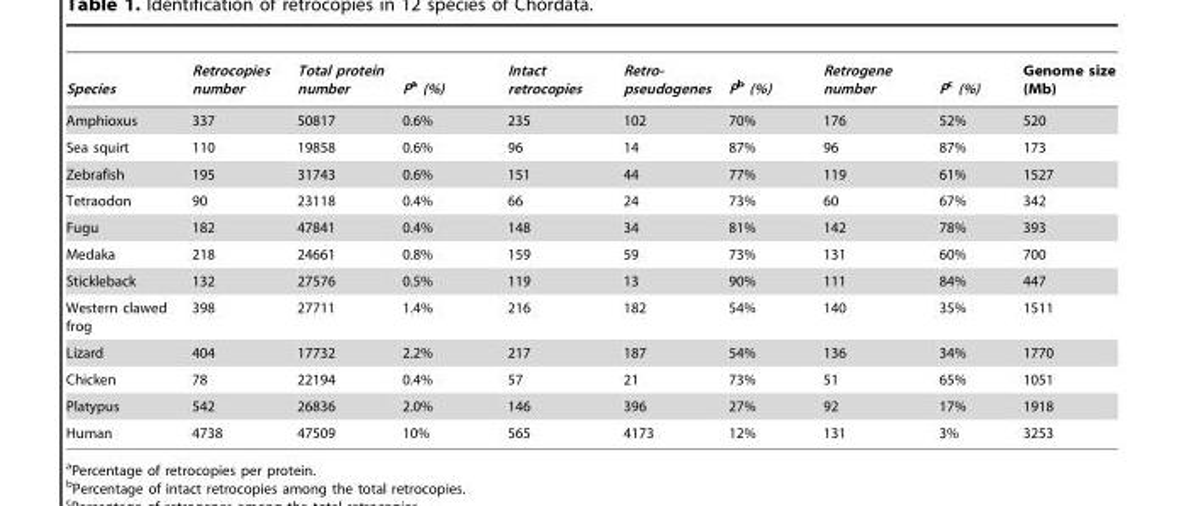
<table><thead><tr><td>Species</td><td>Retrocopies number</td><td>Total protein number</td><td>Pa (%)</td><td>Intact retrocopies</td><td>Retro- pseudogenes</td><td>Pb (%)</td><td>Retrogene number</td><td>Pc (%)</td><td>Genome size (Mb)</td></tr></thead><tbody><tr><td>Amphioxus</td><td>337</td><td>50817</td><td>0.6%</td><td>235</td><td>102</td><td>70%</td><td>176</td><td>52%</td><td>520</td></tr><tr><td>Sea squirt</td><td>110</td><td>19858</td><td>0.6%</td><td>96</td><td>14</td><td>87%</td><td>96</td><td>87%</td><td>173</td></tr><tr><td>Zebrafish</td><td>195</td><td>31743</td><td>0.6%</td><td>151</td><td>44</td><td>77%</td><td>119</td><td>61%</td><td>1527</td></tr><tr><td>Tetraodon</td><td>90</td><td>23118</td><td>0.4%</td><td>66</td><td>24</td><td>73%</td><td>60</td><td>67%</td><td>342</td></tr><tr><td>Fugu</td><td>182</td><td>47841</td><td>0.4%</td><td>148</td><td>34</td><td>81%</td><td>142</td><td>78%</td><td>393</td></tr><tr><td>Medaka</td><td>218</td><td>24661</td><td>0.8%</td><td>159</td><td>59</td><td>73%</td><td>131</td><td>60%</td><td>700</td></tr><tr><td>Stickleback</td><td>132</td><td>27576</td><td>0.5%</td><td>119</td><td>13</td><td>90%</td><td>111</td><td>84%</td><td>447</td></tr><tr><td>Western clawed frog</td><td>398</td><td>27711</td><td>1.4%</td><td>216</td><td>182</td><td>54%</td><td>140</td><td>35%</td><td>1511</td></tr><tr><td>Lizard</td><td>404</td><td>17732</td><td>2.2%</td><td>217</td><td>187</td><td>54%</td><td>136</td><td>34%</td><td>1770</td></tr><tr><td>Chicken</td><td>78</td><td>22194</td><td>0.4%</td><td>57</td><td>21</td><td>73%</td><td>51</td><td>65%</td><td>1051</td></tr><tr><td>Platypus</td><td>542</td><td>26836</td><td>2.0%</td><td>146</td><td>396</td><td>27%</td><td>92</td><td>17%</td><td>1918</td></tr><tr><td>Human</td><td>4738</td><td>47509</td><td>10%</td><td>565</td><td>4173</td><td>12%</td><td>131</td><td>3%</td><td>3253</td></tr></tbody></table>